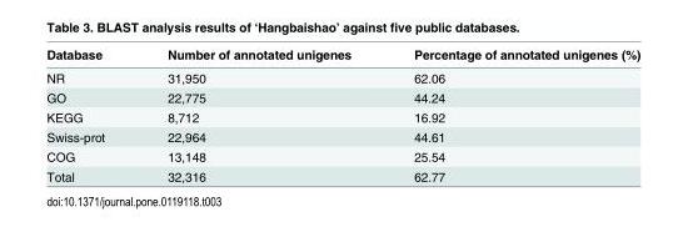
<table><thead><tr><td>Database</td><td>Number of annotated unigenes</td><td>Percentage of annotated unigenes (%)</td></tr></thead><tbody><tr><td>NR</td><td>31,950</td><td>62.06</td></tr><tr><td>GO</td><td>22,775</td><td>44.24</td></tr><tr><td>KEGG</td><td>8,712</td><td>16.92</td></tr><tr><td>Swiss-prot</td><td>22,964</td><td>44.61</td></tr><tr><td>COG</td><td>13,148</td><td>25.54</td></tr><tr><td>Total</td><td>32,316</td><td>62.77</td></tr></tbody></table>